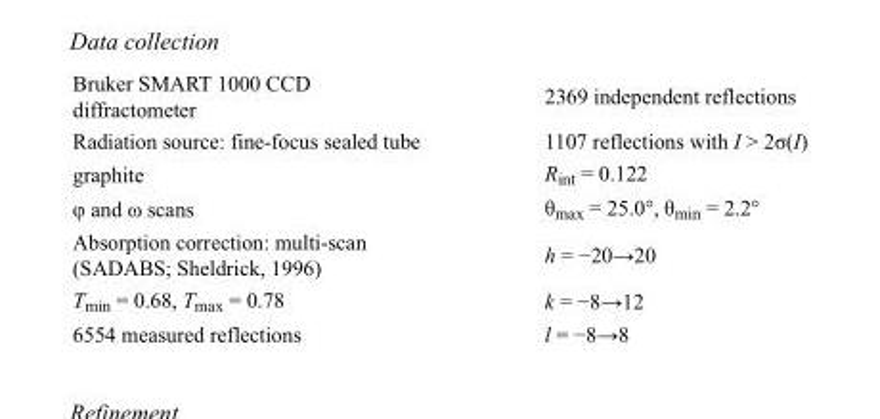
<table><tbody><tr><td>Bruker SMART 1000 CCD diffractometer</td><td>2369 independent reflections</td></tr><tr><td>Radiation source: fine-focus sealed tube</td><td>1107 reflections with I &gt; 2σ(I)</td></tr><tr><td>graphite</td><td>R<sub>int</sub> = 0.122</td></tr><tr><td>φ and ω scans</td><td>θ<sub>max</sub> = 25.0°, θ<sub>min</sub> = 2.2°</td></tr><tr><td>Absorption correction: multi-scan (SADABS; Sheldrick, 1996)</td><td>h = −20→20</td></tr><tr><td>T<sub>min</sub> = 0.68, T<sub>max</sub> = 0.78</td><td>k = −8→12</td></tr><tr><td>6554 measured reflections</td><td>l = −8→8</td></tr></tbody></table>